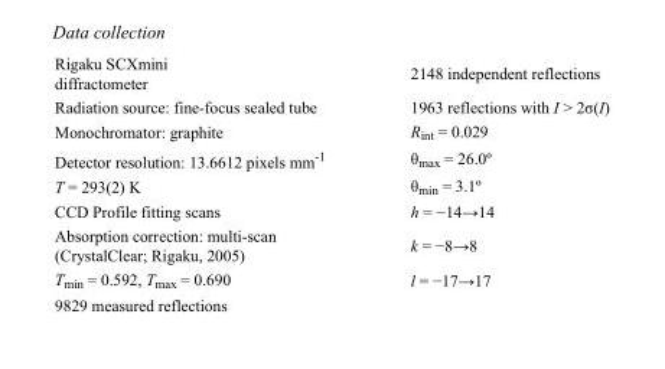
<table><tbody><tr><td>Rigaku SCXmini diffractometer</td><td>2148 independent reflections</td></tr><tr><td>Radiation source: fine-focus sealed tube</td><td>1963 reflections with I &gt; 2σ(I)</td></tr><tr><td>Monochromator: graphite</td><td>R<sub>int</sub> = 0.029</td></tr><tr><td>Detector resolution: 13.6612 pixels mm<sup>-1</sup></td><td>θ<sub>max</sub> = 26.0º</td></tr><tr><td>T = 293(2) K</td><td>θ<sub>min</sub> = 3.1º</td></tr><tr><td>CCD Profile fitting scans</td><td>h = −14→14</td></tr><tr><td>Absorption correction: multi-scan (CrystalClear; Rigaku, 2005)</td><td>k = −8→8</td></tr><tr><td>T<sub>min</sub> = 0.592, T<sub>max</sub> = 0.690</td><td>l = −17→17</td></tr><tr><td>9829 measured reflections</td><td></td></tr></tbody></table>